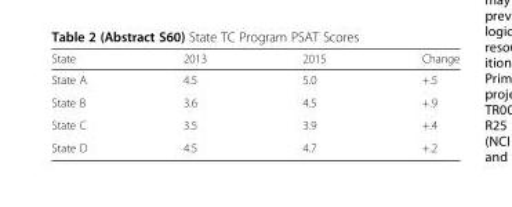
<table><thead><tr><td>State</td><td>2013</td><td>2015</td><td>Change</td></tr></thead><tbody><tr><td>State A</td><td>4.5</td><td>5.0</td><td>+.5</td></tr><tr><td>State B</td><td>3.6</td><td>4.5</td><td>+.9</td></tr><tr><td>State C</td><td>3.5</td><td>3.9</td><td>+.4</td></tr><tr><td>State D</td><td>4.5</td><td>4.7</td><td>+.2</td></tr></tbody></table>